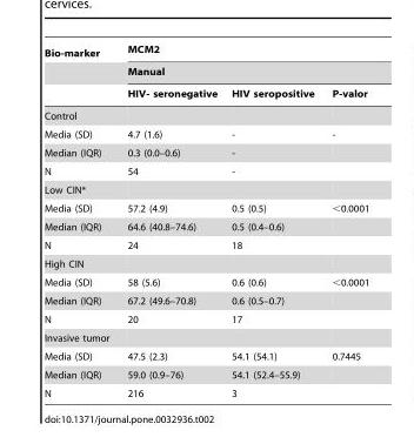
<table><thead><tr><td rowspan="3">Bio-marker</td><td rowspan="2" colspan="3">MCM2 Manual</td></tr><tr></tr><tr><td>HIV- seronegative</td><td>HIV seropositive</td><td>P-valor</td></tr></thead><tbody><tr><td colspan="4">Control</td></tr><tr><td>Media (SD)</td><td>4.7 (1.6)</td><td>-</td><td>-</td></tr><tr><td>Median (IQR)</td><td>0.3 (0.0–0.6)</td><td>-</td><td></td></tr><tr><td>N</td><td>54</td><td>-</td><td></td></tr><tr><td colspan="4">Low CIN*</td></tr><tr><td>Media (SD)</td><td>57.2 (4.9)</td><td>0.5 (0.5)</td><td>&lt;0.0001</td></tr><tr><td>Median (IQR)</td><td>64.6 (40.8–74.6)</td><td>0.5 (0.4–0.6)</td><td></td></tr><tr><td>N</td><td>24</td><td>18</td><td></td></tr><tr><td colspan="4">High CIN</td></tr><tr><td>Media (SD)</td><td>58 (5.6)</td><td>0.6 (0.6)</td><td>&lt;0.0001</td></tr><tr><td>Median (IQR)</td><td>67.2 (49.6–70.8)</td><td>0.6 (0.5–0.7)</td><td></td></tr><tr><td>N</td><td>20</td><td>17</td><td></td></tr><tr><td colspan="4">Invasive tumor</td></tr><tr><td>Media (SD)</td><td>47.5 (2.3)</td><td>54.1 (54.1)</td><td>0.7445</td></tr><tr><td>Median (IQR)</td><td>59.0 (0.9–76)</td><td>54.1 (52.4–55.9)</td><td></td></tr><tr><td>N</td><td>216</td><td>3</td><td></td></tr></tbody></table>